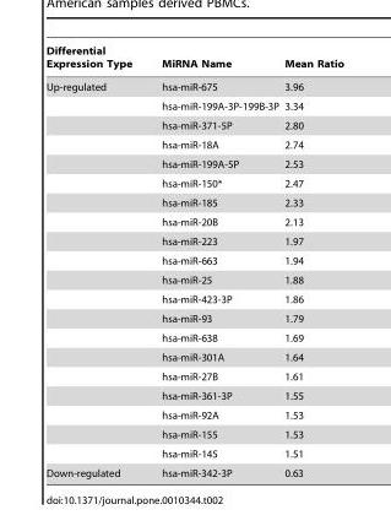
<table><thead><tr><td>Differential Expression Type</td><td>MiRNA Name</td><td>Mean Ratio</td></tr></thead><tbody><tr><td rowspan="20">Up-regulated</td><td>hsa-miR-675</td><td>3.96</td></tr><tr><td>hsa-miR-199A-3P-199B-3P</td><td>3.34</td></tr><tr><td>hsa-miR-371-5P</td><td>2.80</td></tr><tr><td>hsa-miR-18A</td><td>2.74</td></tr><tr><td>hsa-miR-199A-5P</td><td>2.53</td></tr><tr><td>hsa-miR-150*</td><td>2.47</td></tr><tr><td>hsa-miR-185</td><td>2.33</td></tr><tr><td>hsa-miR-20B</td><td>2.13</td></tr><tr><td>hsa-miR-223</td><td>1.97</td></tr><tr><td>hsa-miR-663</td><td>1.94</td></tr><tr><td>hsa-miR-25</td><td>1.88</td></tr><tr><td>hsa-miR-423-3P</td><td>1.86</td></tr><tr><td>hsa-miR-93</td><td>1.79</td></tr><tr><td>hsa-miR-638</td><td>1.69</td></tr><tr><td>hsa-miR-301A</td><td>1.64</td></tr><tr><td>hsa-miR-27B</td><td>1.61</td></tr><tr><td>hsa-miR-361-3P</td><td>1.55</td></tr><tr><td>hsa-miR-92A</td><td>1.53</td></tr><tr><td>hsa-miR-155</td><td>1.53</td></tr><tr><td>hsa-miR-145</td><td>1.51</td></tr><tr><td>Down-regulated</td><td>hsa-miR-342-3P</td><td>0.63</td></tr></tbody></table>